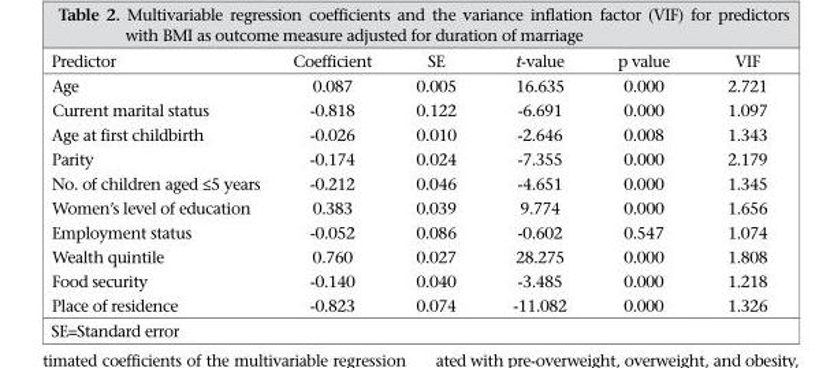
<table><thead><tr><td>Predictor</td><td>Coefficient</td><td>SE</td><td>t-value</td><td>p value</td><td>VIF</td></tr></thead><tbody><tr><td>Age</td><td>0.087</td><td>0.005</td><td>16.635</td><td>0.000</td><td>2.721</td></tr><tr><td>Current marital status</td><td>-0.818</td><td>0.122</td><td>-6.691</td><td>0.000</td><td>1.097</td></tr><tr><td>Age at first childbirth</td><td>-0.026</td><td>0.010</td><td>-2.646</td><td>0.008</td><td>1.343</td></tr><tr><td>Parity</td><td>-0.174</td><td>0.024</td><td>-7.355</td><td>0.000</td><td>2.179</td></tr><tr><td>No. of children aged ≤5 years</td><td>-0.212</td><td>0.046</td><td>-4.651</td><td>0.000</td><td>1.345</td></tr><tr><td>Women’s level of education</td><td>0.383</td><td>0.039</td><td>9.774</td><td>0.000</td><td>1.656</td></tr><tr><td>Employment status</td><td>-0.052</td><td>0.086</td><td>-0.602</td><td>0.547</td><td>1.074</td></tr><tr><td>Wealth quintile</td><td>0.760</td><td>0.027</td><td>28.275</td><td>0.000</td><td>1.808</td></tr><tr><td>Food security</td><td>-0.140</td><td>0.040</td><td>-3.485</td><td>0.000</td><td>1.218</td></tr><tr><td>Place of residence</td><td>-0.823</td><td>0.074</td><td>-11.082</td><td>0.000</td><td>1.326</td></tr></tbody></table>